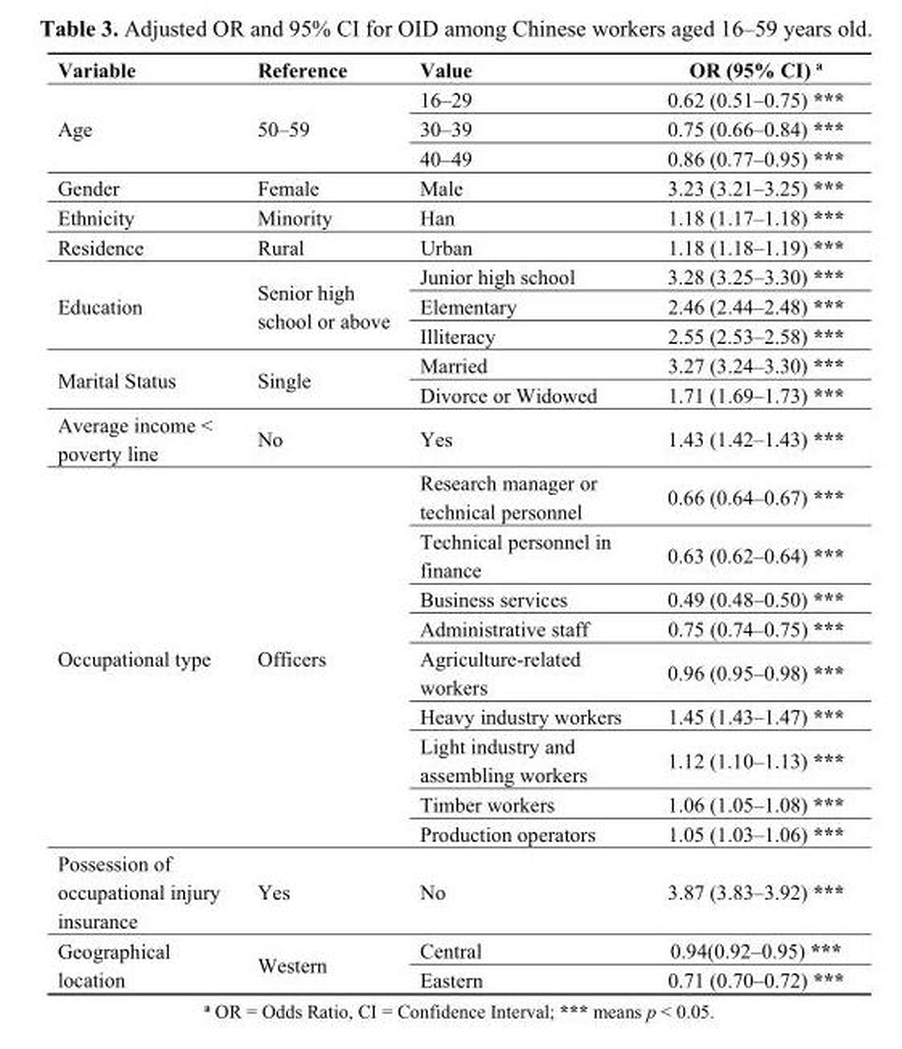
<table><thead><tr><td>Variable</td><td>Reference</td><td>Value</td><td>OR (95% CI) <sup>a</sup></td></tr></thead><tbody><tr><td rowspan="3">Age</td><td rowspan="3">50–59</td><td>16–29</td><td>0.62 (0.51–0.75) ***</td></tr><tr><td>30–39</td><td>0.75 (0.66–0.84) ***</td></tr><tr><td>40–49</td><td>0.86 (0.77–0.95) ***</td></tr><tr><td>Gender</td><td>Female</td><td>Male</td><td>3.23 (3.21–3.25) ***</td></tr><tr><td>Ethnicity</td><td>Minority</td><td>Han</td><td>1.18 (1.17–1.18) ***</td></tr><tr><td>Residence</td><td>Rural</td><td>Urban</td><td>1.18 (1.18–1.19) ***</td></tr><tr><td rowspan="3">Education</td><td rowspan="3">Senior high school or above</td><td>Junior high school</td><td>3.28 (3.25–3.30) ***</td></tr><tr><td>Elementary</td><td>2.46 (2.44–2.48) ***</td></tr><tr><td>Illiteracy</td><td>2.55 (2.53–2.58) ***</td></tr><tr><td rowspan="2">Marital Status</td><td rowspan="2">Single</td><td>Married</td><td>3.27 (3.24–3.30) ***</td></tr><tr><td>Divorce or Widowed</td><td>1.71 (1.69–1.73) ***</td></tr><tr><td>Average income &lt; poverty line</td><td>No</td><td>Yes</td><td>1.43 (1.42–1.43) ***</td></tr><tr><td rowspan="9">Occupational type</td><td rowspan="9">Officers</td><td>Research manager or technical personnel</td><td>0.66 (0.64–0.67) ***</td></tr><tr><td>Technical personnel in finance</td><td>0.63 (0.62–0.64) ***</td></tr><tr><td>Business services</td><td>0.49 (0.48–0.50) ***</td></tr><tr><td>Administrative staff</td><td>0.75 (0.74–0.75) ***</td></tr><tr><td>Agriculture-related workers</td><td>0.96 (0.95–0.98) ***</td></tr><tr><td>Heavy industry workers</td><td>1.45 (1.43–1.47) ***</td></tr><tr><td>Light industry and assembling workers</td><td>1.12 (1.10–1.13) ***</td></tr><tr><td>Timber workers</td><td>1.06 (1.05–1.08) ***</td></tr><tr><td>Production operators</td><td>1.05 (1.03–1.06) ***</td></tr><tr><td>Possession of occupational injury insurance</td><td>Yes</td><td>No</td><td>3.87 (3.83–3.92) ***</td></tr><tr><td rowspan="2">Geographical location</td><td rowspan="2">Western</td><td>Central</td><td>0.94(0.92–0.95) ***</td></tr><tr><td>Eastern</td><td>0.71 (0.70–0.72) ***</td></tr></tbody></table>